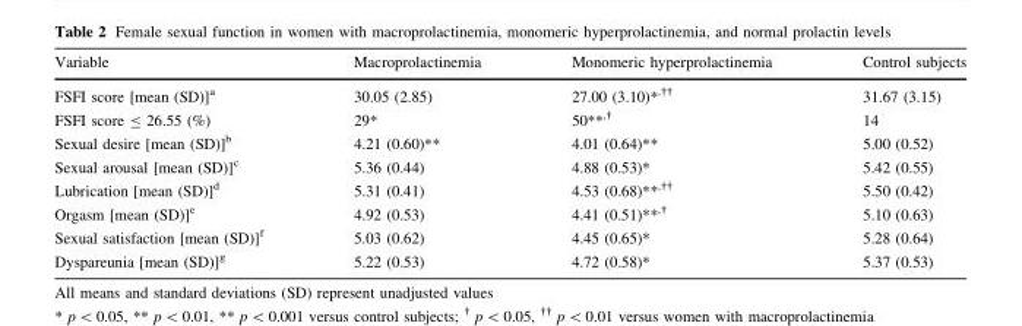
<table><thead><tr><td>Variable</td><td>Macroprolactinemia</td><td>Monomeric hyperprolactinemia</td><td>Control subjects</td></tr></thead><tbody><tr><td>FSFI score [mean (SD)]<sup>a</sup></td><td>30.05 (2.85)</td><td>27.00 (3.10)*<sup>,††</sup></td><td>31.67 (3.15)</td></tr><tr><td>FSFI score ≤ 26.55 (%)</td><td>29*</td><td>50**<sup>,†</sup></td><td>14</td></tr><tr><td>Sexual desire [mean (SD)]<sup>b</sup></td><td>4.21 (0.60)**</td><td>4.01 (0.64)**</td><td>5.00 (0.52)</td></tr><tr><td>Sexual arousal [mean (SD)]<sup>c</sup></td><td>5.36 (0.44)</td><td>4.88 (0.53)*</td><td>5.42 (0.55)</td></tr><tr><td>Lubrication [mean (SD)]<sup>d</sup></td><td>5.31 (0.41)</td><td>4.53 (0.68)**<sup>,††</sup></td><td>5.50 (0.42)</td></tr><tr><td>Orgasm [mean (SD)]<sup>e</sup></td><td>4.92 (0.53)</td><td>4.41 (0.51)**<sup>,†</sup></td><td>5.10 (0.63)</td></tr><tr><td>Sexual satisfaction [mean (SD)]<sup>f</sup></td><td>5.03 (0.62)</td><td>4.45 (0.65)*</td><td>5.28 (0.64)</td></tr><tr><td>Dyspareunia [mean (SD)]<sup>g</sup></td><td>5.22 (0.53)</td><td>4.72 (0.58)*</td><td>5.37 (0.53)</td></tr></tbody></table>